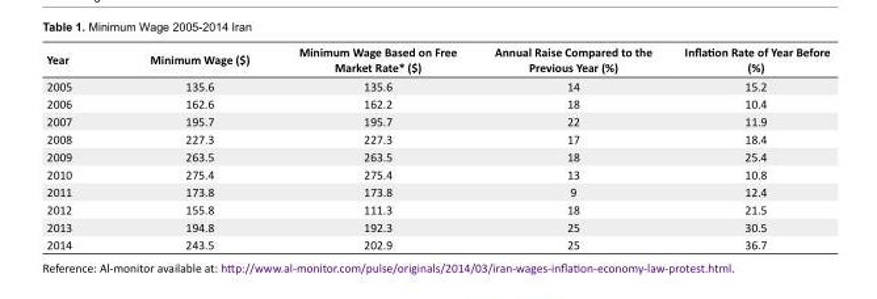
<table><tbody><tr><td>Year</td><td>Minimum Wage ($)</td><td>Minimum Wage Based on Free Market Rate* ($)</td><td>Annual Raise Compared to the Previous Year (%)</td><td>Inflation Rate of Year Before (%)</td></tr><tr><td>2005</td><td>135.6</td><td>135.6</td><td>14</td><td>15.2</td></tr><tr><td>2006</td><td>162.6</td><td>162.2</td><td>18</td><td>10.4</td></tr><tr><td>2007</td><td>195.7</td><td>195.7</td><td>22</td><td>11.9</td></tr><tr><td>2008</td><td>227.3</td><td>227.3</td><td>17</td><td>18.4</td></tr><tr><td>2009</td><td>263.5</td><td>263.5</td><td>18</td><td>25.4</td></tr><tr><td>2010</td><td>275.4</td><td>275.4</td><td>13</td><td>10.8</td></tr><tr><td>2011</td><td>173.8</td><td>173.8</td><td>9</td><td>12.4</td></tr><tr><td>2012</td><td>155.8</td><td>111.3</td><td>18</td><td>21.5</td></tr><tr><td>2013</td><td>194.8</td><td>192.3</td><td>25</td><td>30.5</td></tr><tr><td>2014</td><td>243.5</td><td>202.9</td><td>25</td><td>36.7</td></tr></tbody></table>